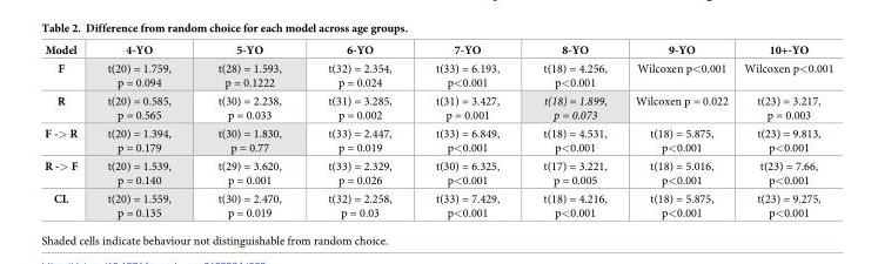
<table><thead><tr><td>Model</td><td>4-YO</td><td>5-YO</td><td>6-YO</td><td>7-YO</td><td>8-YO</td><td>9-YO</td><td>10+-YO</td></tr></thead><tbody><tr><td>F</td><td>t(20) = 1.759, p = 0.094</td><td>t(28) = 1.593, p = 0.1222</td><td>t(32) = 2.354, p = 0.024</td><td>t(33) = 6.193, p&lt;0.001</td><td>t(18) = 4.256, p&lt;0.001</td><td>Wilcoxen p&lt;0.001</td><td>Wilcoxen p&lt;0.001</td></tr><tr><td>R</td><td>t(20) = 0.585, p = 0.565</td><td>t(30) = 2.238, p = 0.033</td><td>t(31) = 3.285, p = 0.002</td><td>t(31) = 3.427, p = 0.001</td><td>t(18) = 1.899, p = 0.073</td><td>Wilcoxen p = 0.022</td><td>t(23) = 3.217, p = 0.003</td></tr><tr><td>F -&gt; R</td><td>t(20) = 1.394, p = 0.179</td><td>t(30) = 1.830, p = 0.77</td><td>t(33) = 2.447, p = 0.019</td><td>t(33) = 6.849, p&lt;0.001</td><td>t(18) = 4.531, p&lt;0.001</td><td>t(18) = 5.875, p&lt;0.001</td><td>t(23) = 9.813, p&lt;0.001</td></tr><tr><td>R -&gt; F</td><td>t(20) = 1.539, p = 0.140</td><td>t(29) = 3.620, p = 0.001</td><td>t(33) = 2.329, p = 0.026</td><td>t(30) = 6.325, p&lt;0.001</td><td>t(17) = 3.221, p = 0.005</td><td>t(18) = 5.016, p&lt;0.001</td><td>t(23) = 7.66, p&lt;0.001</td></tr><tr><td>CL</td><td>t(20) = 1.559, p = 0.135</td><td>t(30) = 2.470, p = 0.019</td><td>t(32) = 2.258, p = 0.03</td><td>t(33) = 7.429, p&lt;0.001</td><td>t(18) = 4.216, p&lt;0.001</td><td>t(18) = 5.875, p&lt;0.001</td><td>t(23) = 9.275, p&lt;0.001</td></tr></tbody></table>